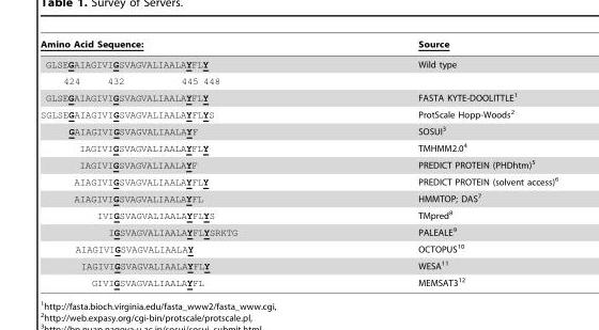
<table><thead><tr><td>Amino Acid Sequence:</td><td>Source</td></tr></thead><tbody><tr><td>GLSEGAIAGIVIGSVAGVALIAALAYFLY</td><td>Wild type</td></tr><tr><td colspan="2">424 432 445 448</td></tr><tr><td>GLSEGAIAGIVIGSVAGVALIAALAYFLY</td><td>FASTA KYTE-DOOLITTLE<sup>1</sup></td></tr><tr><td>SGLSEGAIAGIVIGSVAGVALIAALAYFLYS</td><td>ProtScale Hopp-Woods<sup>2</sup></td></tr><tr><td>GAIAGIVIGSVAGVALIAALAYF</td><td>SOSUI<sup>3</sup></td></tr><tr><td>IAGIVIGSVAGVALIAALAYFLY</td><td>TMHMM2.0<sup>4</sup></td></tr><tr><td>IAGIVIGSVAGVALIAALAYF</td><td>PREDICT PROTEIN (PHDhtm)<sup>5</sup></td></tr><tr><td>AIAGIVIGSVAGVALIAALAYFLY</td><td>PREDICT PROTEIN (solvent access)<sup>6</sup></td></tr><tr><td>AIAGIVIGSVAGVALIAALAYFL</td><td>HMMTOP; DAS<sup>7</sup></td></tr><tr><td>IVIGSVAGVALIAALAYFLYS</td><td>TMpred<sup>8</sup></td></tr><tr><td>IGSVAGVALIAALAYFLYSRKTG</td><td>PALEALE<sup>9</sup></td></tr><tr><td>AIAGIVIGSVAGVALIAALAY</td><td>OCTOPUS<sup>10</sup></td></tr><tr><td>IAGIVIGSVAGVALIAALAYFLY</td><td>WESA<sup>11</sup></td></tr><tr><td>GIVIGSVAGVALIAALAYFL</td><td>MEMSAT3<sup>12</sup></td></tr></tbody></table>